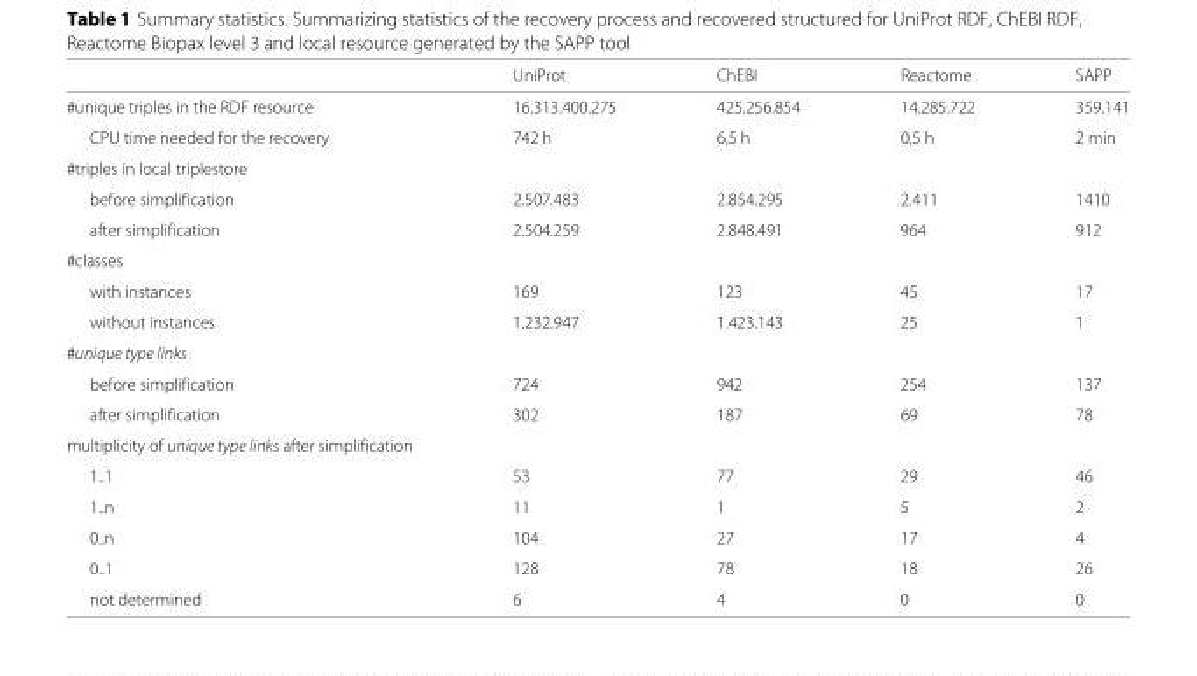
<table><thead><tr><td></td><td>UniProt</td><td>ChEBI</td><td>Reactome</td><td>SAPP</td></tr></thead><tbody><tr><td>#unique triples in the RDF resource</td><td>16.313.400.275</td><td>425.256.854</td><td>14.285.722</td><td>359.141</td></tr><tr><td>CPU time needed for the recovery</td><td>742 h</td><td>6,5 h</td><td>0,5 h</td><td>2 min</td></tr><tr><td colspan="5">#triples in local triplestore</td></tr><tr><td>before simplification</td><td>2.507.483</td><td>2.854.295</td><td>2.411</td><td>1410</td></tr><tr><td>after simplification</td><td>2.504.259</td><td>2.848.491</td><td>964</td><td>912</td></tr><tr><td colspan="5">#classes</td></tr><tr><td>with instances</td><td>169</td><td>123</td><td>45</td><td>17</td></tr><tr><td>without instances</td><td>1.232.947</td><td>1.423.143</td><td>25</td><td>1</td></tr><tr><td colspan="5">#unique type links</td></tr><tr><td>before simplification</td><td>724</td><td>942</td><td>254</td><td>137</td></tr><tr><td>after simplification</td><td>302</td><td>187</td><td>69</td><td>78</td></tr><tr><td colspan="5">multiplicity of unique type links after simplification</td></tr><tr><td>1..1</td><td>53</td><td>77</td><td>29</td><td>46</td></tr><tr><td>1..n</td><td>11</td><td>1</td><td>5</td><td>2</td></tr><tr><td>0..n</td><td>104</td><td>27</td><td>17</td><td>4</td></tr><tr><td>0..1</td><td>128</td><td>78</td><td>18</td><td>26</td></tr><tr><td>not determined</td><td>6</td><td>4</td><td>0</td><td>0</td></tr></tbody></table>